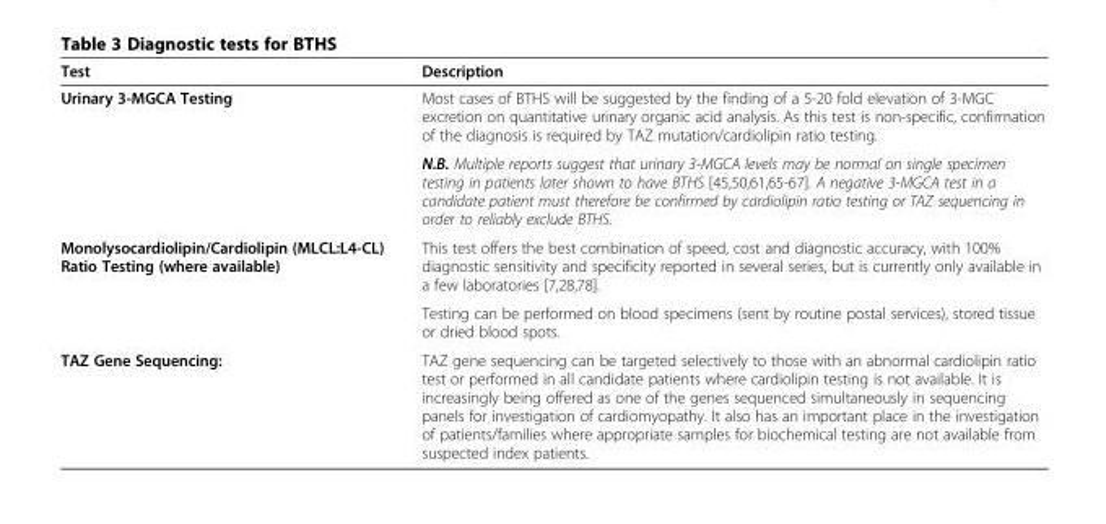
<table><thead><tr><td>Test</td><td>Description</td></tr></thead><tbody><tr><td rowspan="2">Urinary 3-MGCA Testing</td><td>Most cases of BTHS will be suggested by the finding of a 5-20 fold elevation of 3-MGC excretion on quantitative urinary organic acid analysis. As this test is non-specific, confirmation of the diagnosis is required by TAZ mutation/cardiolipin ratio testing.</td></tr><tr><td>N.B. Multiple reports suggest that urinary 3-MGCA levels may be normal on single specimen testing in patients later shown to have BTHS [45,50,61,65-67]. A negative 3-MGCA test in a candidate patient must therefore be confirmed by cardiolipin ratio testing or TAZ sequencing in order to reliably exclude BTHS.</td></tr><tr><td rowspan="2">Monolysocardiolipin/Cardiolipin (MLCL:L4-CL) Ratio Testing (where available)</td><td>This test offers the best combination of speed, cost and diagnostic accuracy, with 100% diagnostic sensitivity and specificity reported in several series, but is currently only available in a few laboratories [7,28,78].</td></tr><tr><td>Testing can be performed on blood specimens (sent by routine postal services), stored tissue or dried blood spots.</td></tr><tr><td>TAZ Gene Sequencing:</td><td>TAZ gene sequencing can be targeted selectively to those with an abnormal cardiolipin ratio test or performed in all candidate patients where cardiolipin testing is not available. It is increasingly being offered as one of the genes sequenced simultaneously in sequencing panels for investigation of cardiomyopathy. It also has an important place in the investigation of patients/families where appropriate samples for biochemical testing are not available from suspected index patients.</td></tr></tbody></table>